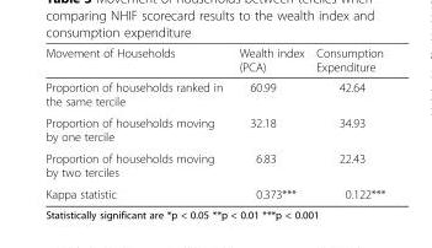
<table><thead><tr><td>Movement of Households</td><td>Wealth index (PCA)</td><td>Consumption Expenditure</td></tr></thead><tbody><tr><td>Proportion of households ranked in the same tercile</td><td>60.99</td><td>42.64</td></tr><tr><td>Proportion of households moving by one tercile</td><td>32.18</td><td>34.93</td></tr><tr><td>Proportion of households moving by two terciles</td><td>6.83</td><td>22.43</td></tr><tr><td>Kappa statistic</td><td>0.373***</td><td>0.122***</td></tr></tbody></table>